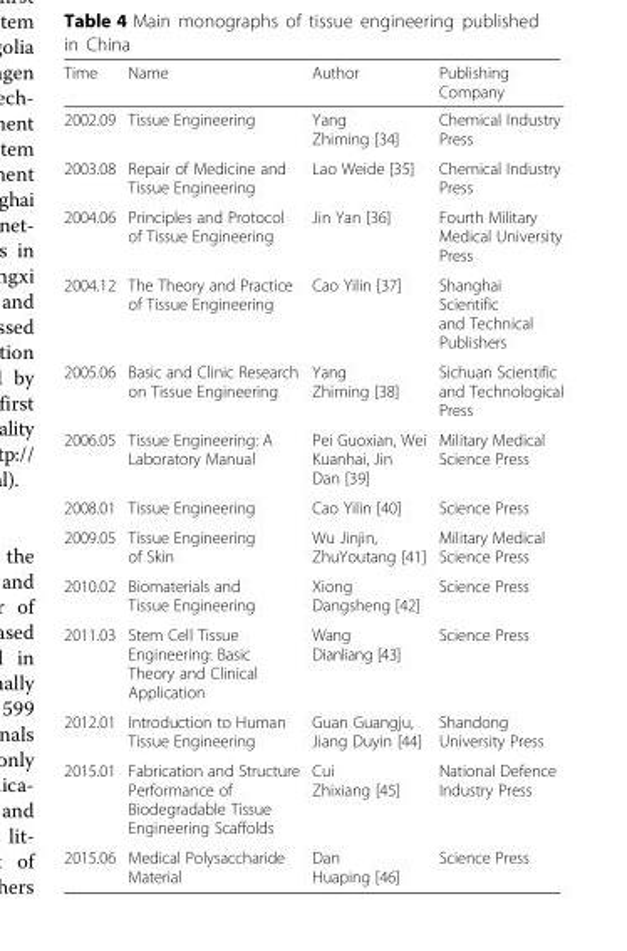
<table><thead><tr><td>Time</td><td>Name</td><td>Author</td><td>Publishing Company</td></tr></thead><tbody><tr><td>2002.09</td><td>Tissue Engineering</td><td>Yang Zhiming [34]</td><td>Chemical Industry Press</td></tr><tr><td>2003.08</td><td>Repair of Medicine and Tissue Engineering</td><td>Lao Weide [35]</td><td>Chemical Industry Press</td></tr><tr><td>2004.06</td><td>Principles and Protocol of Tissue Engineering</td><td>Jin Yan [36]</td><td>Fourth Military Medical University Press</td></tr><tr><td>2004.12</td><td>The Theory and Practice of Tissue Engineering</td><td>Cao Yilin [37]</td><td>Shanghai Scientific and Technical Publishers</td></tr><tr><td>2005.06</td><td>Basic and Clinic Research on Tissue Engineering</td><td>Yang Zhiming [38]</td><td>Sichuan Scientific and Technological Press</td></tr><tr><td>2006.05</td><td>Tissue Engineering: A Laboratory Manual</td><td>Pei Guoxian, Wei Kuanhai, Jin Dan [39]</td><td>Military Medical Science Press</td></tr><tr><td>2008.01</td><td>Tissue Engineering</td><td>Cao Yilin [40]</td><td>Science Press</td></tr><tr><td>2009.05</td><td>Tissue Engineering of Skin</td><td>Wu Jinjin, ZhuYoutang [41]</td><td>Military Medical Science Press</td></tr><tr><td>2010.02</td><td>Biomaterials and Tissue Engineering</td><td>Xiong Dangsheng [42]</td><td>Science Press</td></tr><tr><td>2011.03</td><td>Stem Cell Tissue Engineering: Basic Theory and Clinical Application</td><td>Wang Dianliang [43]</td><td>Science Press</td></tr><tr><td>2012.01</td><td>Introduction to Human Tissue Engineering</td><td>Guan Guangju, Jiang Duyin [44]</td><td>Shandong University Press</td></tr><tr><td>2015.01</td><td>Fabrication and Structure Performance of Biodegradable Tissue Engineering Scaffolds</td><td>Cui Zhixiang [45]</td><td>National Defence Industry Press</td></tr><tr><td>2015.06</td><td>Medical Polysaccharide Material</td><td>Dan Huaping [46]</td><td>Science Press</td></tr></tbody></table>